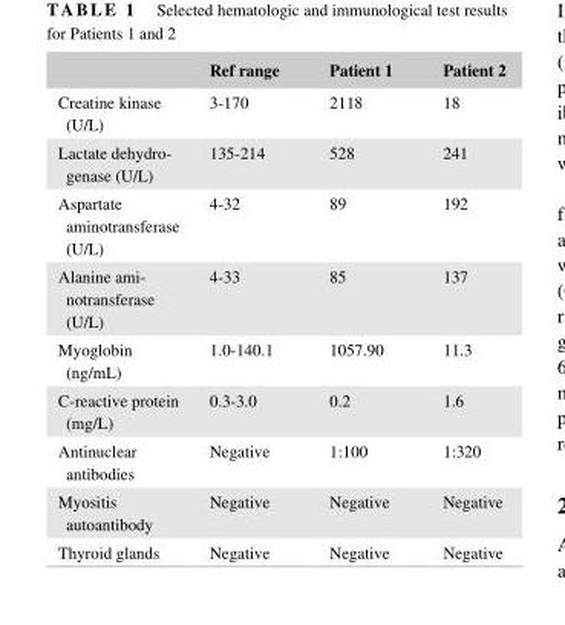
<table><thead><tr><td></td><td>Ref range</td><td>Patient 1</td><td>Patient 2</td></tr></thead><tbody><tr><td>Creatine kinase (U/L)</td><td>3- 170</td><td>2118</td><td>18</td></tr><tr><td>Lactate dehydro- genase (U/L)</td><td>135- 214</td><td>528</td><td>241</td></tr><tr><td>Aspartate aminotransferase (U/L)</td><td>4- 32</td><td>89</td><td>192</td></tr><tr><td>Alanine ami- notransferase (U/L)</td><td>4- 33</td><td>85</td><td>137</td></tr><tr><td>Myoglobin (ng/mL)</td><td>1.0- 140.1</td><td>1057.90</td><td>11.3</td></tr><tr><td>C- reactive protein (mg/L)</td><td>0.3- 3.0</td><td>0.2</td><td>1.6</td></tr><tr><td>Antinuclear antibodies</td><td>Negative</td><td>1:100</td><td>1:320</td></tr><tr><td>Myositis autoantibody</td><td>Negative</td><td>Negative</td><td>Negative</td></tr><tr><td>Thyroid glands</td><td>Negative</td><td>Negative</td><td>Negative</td></tr></tbody></table>